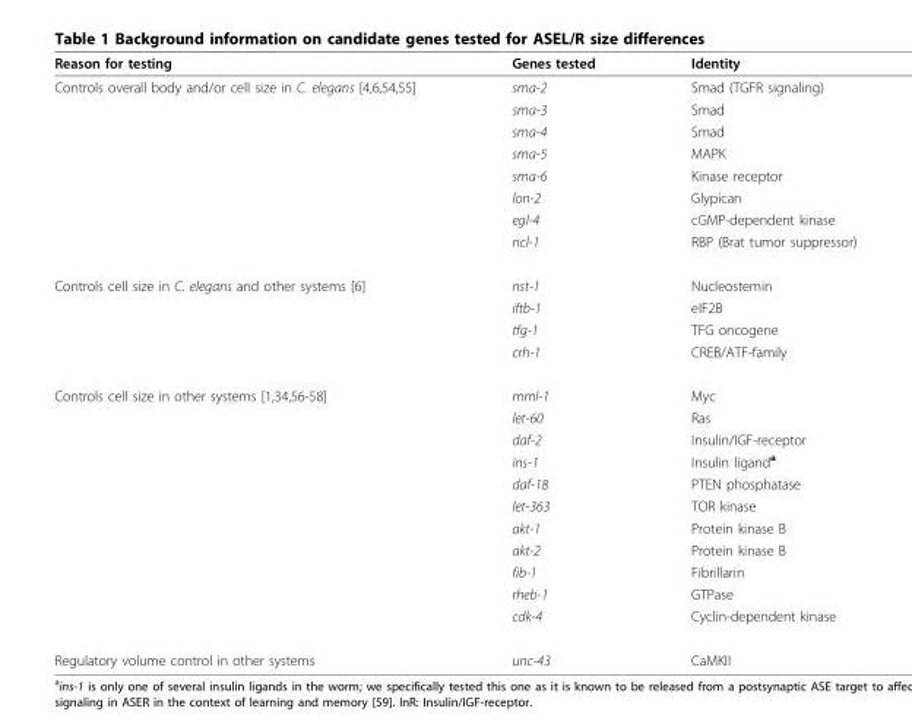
<table><thead><tr><td>Reason for testing</td><td>Genes tested</td><td>Identity</td></tr></thead><tbody><tr><td rowspan="8">Controls overall body and/or cell size in C. elegans [4,6,54,55]</td><td>sma-2</td><td>Smad (TGFR signaling)</td></tr><tr><td>sma-3</td><td>Smad</td></tr><tr><td>sma-4</td><td>Smad</td></tr><tr><td>sma-5</td><td>MAPK</td></tr><tr><td>sma-6</td><td>Kinase receptor</td></tr><tr><td>lon-2</td><td>Glypican</td></tr><tr><td>egl-4</td><td>cGMP-dependent kinase</td></tr><tr><td>ncl-1</td><td>RBP (Brat tumor suppressor)</td></tr><tr><td rowspan="4">Controls cell size in C. elegans and other systems [6]</td><td>nst-1</td><td>Nucleostemin</td></tr><tr><td>iftb-1</td><td>eIF2B</td></tr><tr><td>tfg-1</td><td>TFG oncogene</td></tr><tr><td>crh-1</td><td>CREB/ATF-family</td></tr><tr><td rowspan="11">Controls cell size in other systems [1,34,56-58]</td><td>mml-1</td><td>Myc</td></tr><tr><td>let-60</td><td>Ras</td></tr><tr><td>daf-2</td><td>Insulin/IGF-receptor</td></tr><tr><td>ins-1</td><td>Insulin ligand<sup>a</sup></td></tr><tr><td>daf-18</td><td>PTEN phosphatase</td></tr><tr><td>let-363</td><td>TOR kinase</td></tr><tr><td>akt-1</td><td>Protein kinase B</td></tr><tr><td>akt-2</td><td>Protein kinase B</td></tr><tr><td>fib-1</td><td>Fibrillarin</td></tr><tr><td>rheb-1</td><td>GTPase</td></tr><tr><td>cdk-4</td><td>Cyclin-dependent kinase</td></tr><tr><td>Regulatory volume control in other systems</td><td>unc-43</td><td>CaMKII</td></tr></tbody></table>